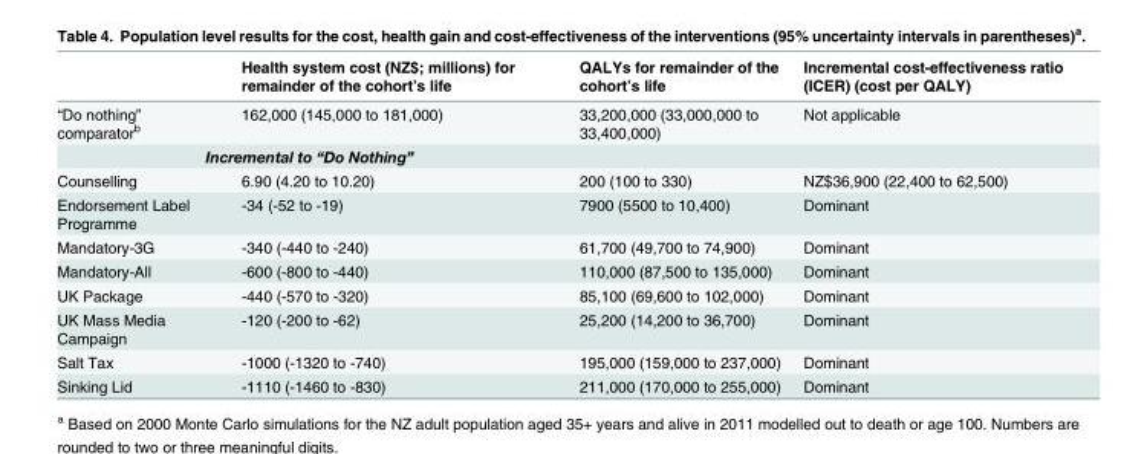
<table><thead><tr><td></td><td>Health system cost (NZ$; millions) for remainder of the cohort’s life</td><td>QALYs for remainder of the cohort’s life</td><td>Incremental cost-effectiveness ratio (ICER) (cost per QALY)</td></tr></thead><tbody><tr><td>“Do nothing” comparator<sup>b</sup></td><td>162,000 (145,000 to 181,000)</td><td>33,200,000 (33,000,000 to 33,400,000)</td><td>Not applicable</td></tr><tr><td colspan="4">Incremental to “Do Nothing”</td></tr><tr><td>Counselling</td><td>6.90 (4.20 to 10.20)</td><td>200 (100 to 330)</td><td>NZ$36,900 (22,400 to 62,500)</td></tr><tr><td>Endorsement Label Programme</td><td>-34 (-52 to -19)</td><td>7900 (5500 to 10,400)</td><td>Dominant</td></tr><tr><td>Mandatory-3G</td><td>-340 (-440 to -240)</td><td>61,700 (49,700 to 74,900)</td><td>Dominant</td></tr><tr><td>Mandatory-All</td><td>-600 (-800 to -440)</td><td>110,000 (87,500 to 135,000)</td><td>Dominant</td></tr><tr><td>UK Package</td><td>-440 (-570 to -320)</td><td>85,100 (69,600 to 102,000)</td><td>Dominant</td></tr><tr><td>UK Mass Media Campaign</td><td>-120 (-200 to -62)</td><td>25,200 (14,200 to 36,700)</td><td>Dominant</td></tr><tr><td>Salt Tax</td><td>-1000 (-1320 to -740)</td><td>195,000 (159,000 to 237,000)</td><td>Dominant</td></tr><tr><td>Sinking Lid</td><td>-1110 (-1460 to -830)</td><td>211,000 (170,000 to 255,000)</td><td>Dominant</td></tr></tbody></table>